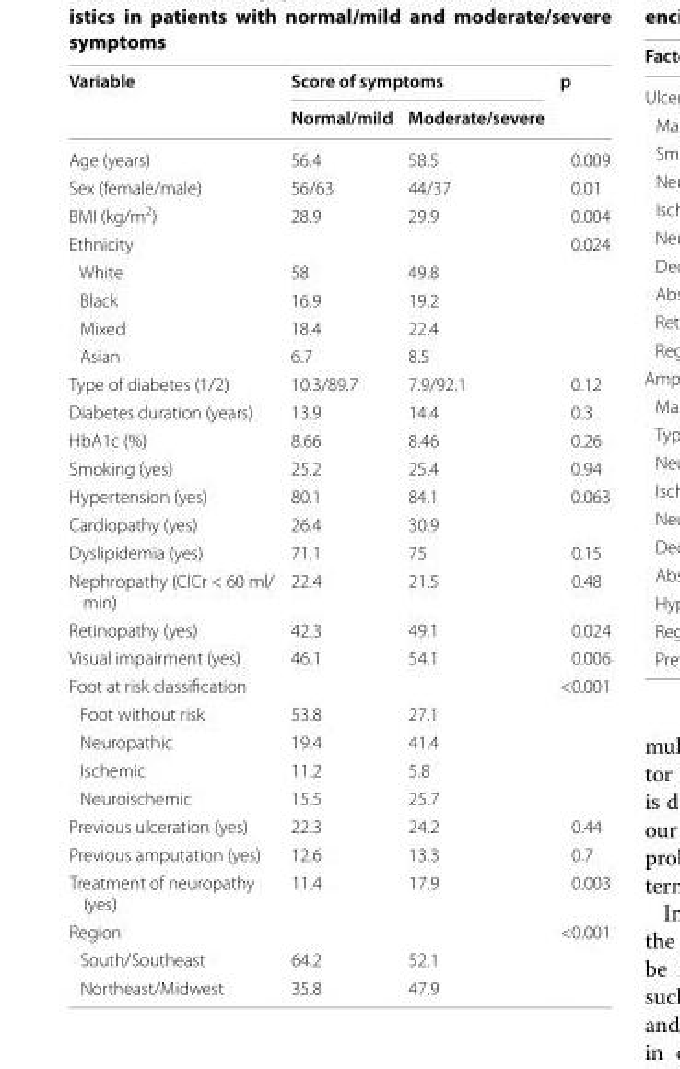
<table><thead><tr><td rowspan="2">Variable</td><td colspan="2">Score of symptoms</td><td rowspan="2">p</td></tr><tr><td>Normal/mild</td><td>Moderate/severe</td></tr></thead><tbody><tr><td>Age (years)</td><td>56.4</td><td>58.5</td><td>0.009</td></tr><tr><td>Sex (female/male)</td><td>56/63</td><td>44/37</td><td>0.01</td></tr><tr><td>BMI (kg/m<sup>2</sup>)</td><td>28.9</td><td>29.9</td><td>0.004</td></tr><tr><td>Ethnicity</td><td></td><td></td><td>0.024</td></tr><tr><td>White</td><td>58</td><td>49.8</td><td></td></tr><tr><td>Black</td><td>16.9</td><td>19.2</td><td></td></tr><tr><td>Mixed</td><td>18.4</td><td>22.4</td><td></td></tr><tr><td>Asian</td><td>6.7</td><td>8.5</td><td></td></tr><tr><td>Type of diabetes (1/2)</td><td>10.3/89.7</td><td>7.9/92.1</td><td>0.12</td></tr><tr><td>Diabetes duration (years)</td><td>13.9</td><td>14.4</td><td>0.3</td></tr><tr><td>HbA1c (%)</td><td>8.66</td><td>8.46</td><td>0.26</td></tr><tr><td>Smoking (yes)</td><td>25.2</td><td>25.4</td><td>0.94</td></tr><tr><td>Hypertension (yes)</td><td>80.1</td><td>84.1</td><td>0.063</td></tr><tr><td>Cardiopathy (yes)</td><td>26.4</td><td>30.9</td><td></td></tr><tr><td>Dyslipidemia (yes)</td><td>71.1</td><td>75</td><td>0.15</td></tr><tr><td>Nephropathy (ClCr &lt; 60 ml/ min)</td><td>22.4</td><td>21.5</td><td>0.48</td></tr><tr><td>Retinopathy (yes)</td><td>42.3</td><td>49.1</td><td>0.024</td></tr><tr><td>Visual impairment (yes)</td><td>46.1</td><td>54.1</td><td>0.006</td></tr><tr><td>Foot at risk classification</td><td></td><td></td><td>&lt;0.001</td></tr><tr><td>Foot without risk</td><td>53.8</td><td>27.1</td><td></td></tr><tr><td>Neuropathic</td><td>19.4</td><td>41.4</td><td></td></tr><tr><td>Ischemic</td><td>11.2</td><td>5.8</td><td></td></tr><tr><td>Neuroischemic</td><td>15.5</td><td>25.7</td><td></td></tr><tr><td>Previous ulceration (yes)</td><td>22.3</td><td>24.2</td><td>0.44</td></tr><tr><td>Previous amputation (yes)</td><td>12.6</td><td>13.3</td><td>0.7</td></tr><tr><td>Treatment of neuropathy (yes)</td><td>11.4</td><td>17.9</td><td>0.003</td></tr><tr><td>Region</td><td></td><td></td><td>&lt;0.001</td></tr><tr><td>South/Southeast</td><td>64.2</td><td>52.1</td><td></td></tr><tr><td>Northeast/Midwest</td><td>35.8</td><td>47.9</td><td></td></tr></tbody></table>